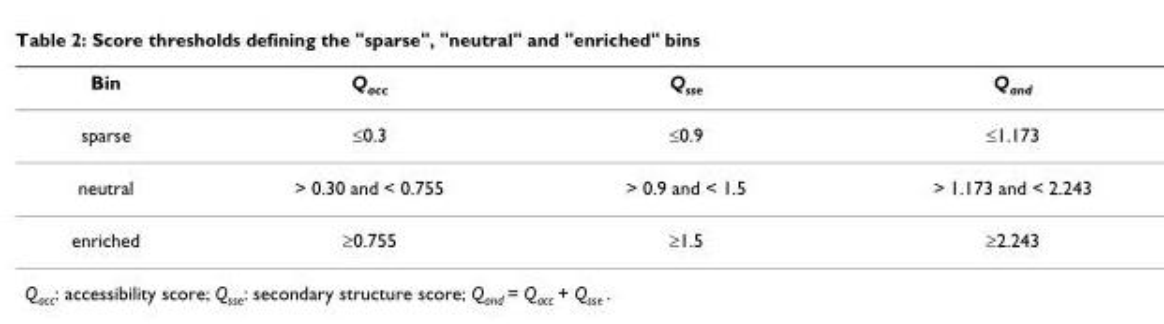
<table><thead><tr><td>Bin</td><td>Q<sub>acc</sub></td><td>Q<sub>sse</sub></td><td>Q<sub>and</sub></td></tr></thead><tbody><tr><td>sparse</td><td>≤0.3</td><td>≤0.9</td><td>≤1.173</td></tr><tr><td>neutral</td><td>&gt; 0.30 and &lt; 0.755</td><td>&gt; 0.9 and &lt; 1.5</td><td>&gt; 1.173 and &lt; 2.243</td></tr><tr><td>enriched</td><td>≥0.755</td><td>≥1.5</td><td>≥2.243</td></tr></tbody></table>